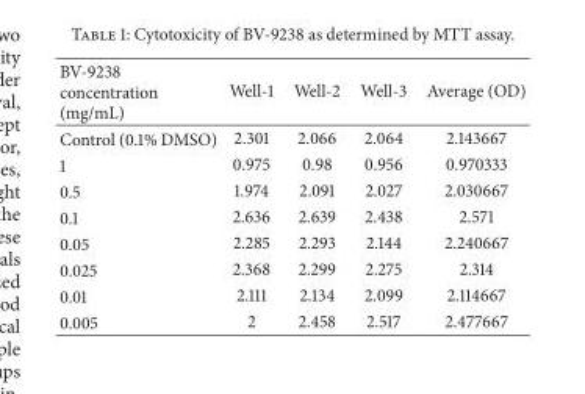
<table><thead><tr><td>BV-9238 concentration (mg/mL)</td><td>Well-1</td><td>Well-2</td><td>Well-3</td><td>Average (OD)</td></tr></thead><tbody><tr><td>Control (0.1% DMSO)</td><td>2.301</td><td>2.066</td><td>2.064</td><td>2.143667</td></tr><tr><td>1</td><td>0.975</td><td>0.98</td><td>0.956</td><td>0.970333</td></tr><tr><td>0.5</td><td>1.974</td><td>2.091</td><td>2.027</td><td>2.030667</td></tr><tr><td>0.1</td><td>2.636</td><td>2.639</td><td>2.438</td><td>2.571</td></tr><tr><td>0.05</td><td>2.285</td><td>2.293</td><td>2.144</td><td>2.240667</td></tr><tr><td>0.025</td><td>2.368</td><td>2.299</td><td>2.275</td><td>2.314</td></tr><tr><td>0.01</td><td>2.111</td><td>2.134</td><td>2.099</td><td>2.114667</td></tr><tr><td>0.005</td><td>2</td><td>2.458</td><td>2.517</td><td>2.477667</td></tr></tbody></table>